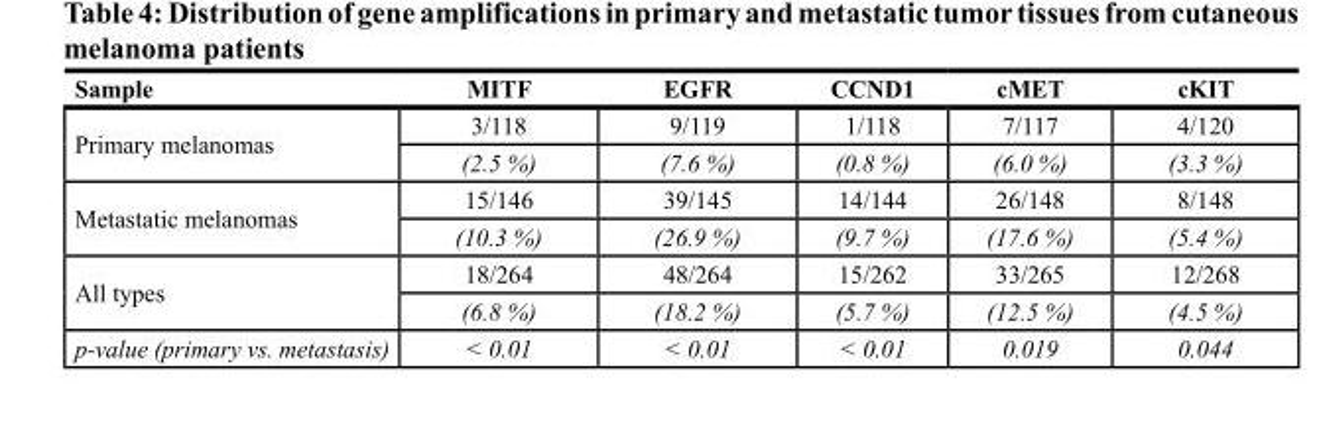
<table><thead><tr><td>Sample</td><td>MITF</td><td>EGFR</td><td>CCND1</td><td>cMET</td><td>cKIT</td></tr></thead><tbody><tr><td rowspan="2">Primary melanomas</td><td>3/118</td><td>9/119</td><td>1/118</td><td>7/117</td><td>4/120</td></tr><tr><td>(2.5 %)</td><td>(7.6 %)</td><td>(0.8 %)</td><td>(6.0 %)</td><td>(3.3 %)</td></tr><tr><td rowspan="2">Metastatic melanomas</td><td>15/146</td><td>39/145</td><td>14/144</td><td>26/148</td><td>8/148</td></tr><tr><td>(10.3 %)</td><td>(26.9 %)</td><td>(9.7 %)</td><td>(17.6 %)</td><td>(5.4 %)</td></tr><tr><td rowspan="2">All types</td><td>18/264</td><td>48/264</td><td>15/262</td><td>33/265</td><td>12/268</td></tr><tr><td>(6.8 %)</td><td>(18.2 %)</td><td>(5.7 %)</td><td>(12.5 %)</td><td>(4.5 %)</td></tr><tr><td>p-value (primary vs. metastasis)</td><td>&lt; 0.01</td><td>&lt; 0.01</td><td>&lt; 0.01</td><td>0.019</td><td>0.044</td></tr></tbody></table>